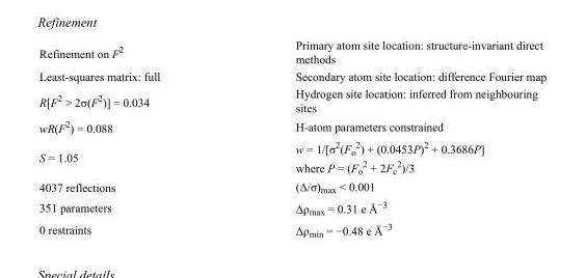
<table><tbody><tr><td>Refinement on F<sup>2</sup></td><td>Primary atom site location: structure-invariant direct methods</td></tr><tr><td>Least-squares matrix: full</td><td>Secondary atom site location: difference Fourier map</td></tr><tr><td>R[F<sup>2</sup> &gt; 2σ(F<sup>2</sup>)] = 0.034</td><td>Hydrogen site location: inferred from neighbouring sites</td></tr><tr><td>wR(F<sup>2</sup>) = 0.088</td><td>H-atom parameters constrained</td></tr><tr><td>S = 1.05</td><td>w = 1/[σ<sup>2</sup>(F<sub>o</sub> <sup>2</sup>) + (0.0453P)<sup>2</sup> + 0.3686P] where P = (F<sub>o</sub> <sup>2</sup> + 2F<sub>c</sub> <sup>2</sup>)/3</td></tr><tr><td>4037 reflections</td><td>(Δ/σ)<sub>max</sub> &lt; 0.001</td></tr><tr><td>351 parameters</td><td>Δρ<sub>max</sub> = 0.31 e Å<sup>−3</sup></td></tr><tr><td>0 restraints</td><td>Δρ<sub>min</sub> = −0.48 e Å<sup>−3</sup></td></tr></tbody></table>